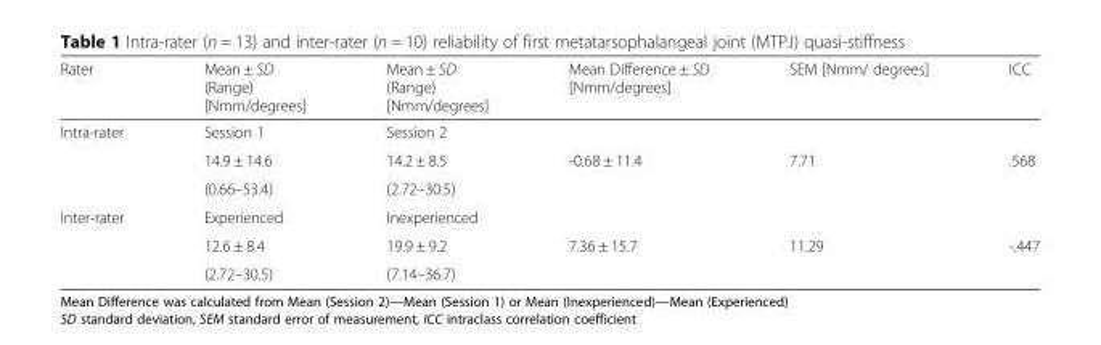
<table><thead><tr><td>Rater</td><td>Mean ± SD (Range) [Nmm/degrees]</td><td>Mean ± SD (Range) [Nmm/degrees]</td><td>Mean Difference ± SD [Nmm/degrees]</td><td>SEM [Nmm/ degrees]</td><td>ICC</td></tr></thead><tbody><tr><td rowspan="3">Intra-rater</td><td>Session 1</td><td>Session 2</td><td></td><td></td><td></td></tr><tr><td>14.9 ± 14.6</td><td>14.2 ± 8.5</td><td rowspan="2">-0.68 ± 11.4</td><td rowspan="2">7.71</td><td rowspan="2">.568</td></tr><tr><td>(0.66–53.4)</td><td>(2.72–30.5)</td></tr><tr><td rowspan="3">Inter-rater</td><td>Experienced</td><td>Inexperienced</td><td></td><td></td><td></td></tr><tr><td>12.6 ± 8.4</td><td>19.9 ± 9.2</td><td rowspan="2">7.36 ± 15.7</td><td rowspan="2">11.29</td><td rowspan="2">-.447</td></tr><tr><td>(2.72–30.5)</td><td>(7.14–36.7)</td></tr></tbody></table>